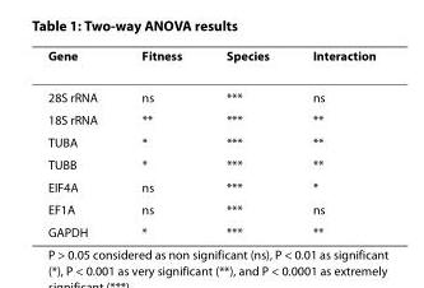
<table><thead><tr><td>Gene</td><td>Fitness</td><td>Species</td><td>Interaction</td></tr></thead><tbody><tr><td>28S rRNA</td><td>ns</td><td>***</td><td>ns</td></tr><tr><td>18S rRNA</td><td>**</td><td>***</td><td>**</td></tr><tr><td>TUBA</td><td>*</td><td>***</td><td>**</td></tr><tr><td>TUBB</td><td>*</td><td>***</td><td>**</td></tr><tr><td>EIF4A</td><td>ns</td><td>***</td><td>*</td></tr><tr><td>EF1A</td><td>ns</td><td>***</td><td>ns</td></tr><tr><td>GAPDH</td><td>*</td><td>***</td><td>**</td></tr></tbody></table>